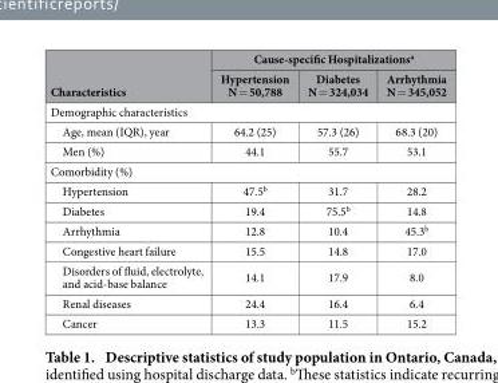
<table><thead><tr><td rowspan="2">Characteristics</td><td colspan="3">Cause-specific Hospitalizations<sup>a</sup></td></tr><tr><td>Hypertension N = 50,788</td><td>Diabetes N = 324,034</td><td>Arrhythmia N = 345,052</td></tr></thead><tbody><tr><td colspan="4">Demographic characteristics</td></tr><tr><td>Age, mean (IQR), year</td><td>64.2 (25)</td><td>57.3 (26)</td><td>68.3 (20)</td></tr><tr><td>Men (%)</td><td>44.1</td><td>55.7</td><td>53.1</td></tr><tr><td colspan="4">Comorbidity (%)</td></tr><tr><td>Hypertension</td><td>47.5<sup>b</sup></td><td>31.7</td><td>28.2</td></tr><tr><td>Diabetes</td><td>19.4</td><td>75.5<sup>b</sup></td><td>14.8</td></tr><tr><td>Arrhythmia</td><td>12.8</td><td>10.4</td><td>45.3<sup>b</sup></td></tr><tr><td>Congestive heart failure</td><td>15.5</td><td>14.8</td><td>17.0</td></tr><tr><td>Disorders of fluid, electrolyte, and acid-base balance</td><td>14.1</td><td>17.9</td><td>8.0</td></tr><tr><td>Renal diseases</td><td>24.4</td><td>16.4</td><td>6.4</td></tr><tr><td>Cancer</td><td>13.3</td><td>11.5</td><td>15.2</td></tr></tbody></table>